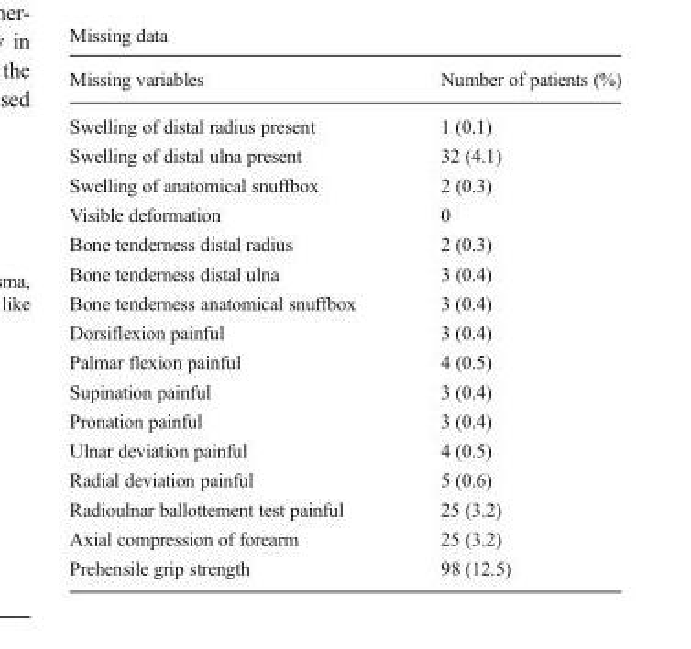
<table><thead><tr><td>Missing variables</td><td>Number of patients (%)</td></tr></thead><tbody><tr><td>Swelling of distal radius present</td><td>1 (0.1)</td></tr><tr><td>Swelling of distal ulna present</td><td>32 (4.1)</td></tr><tr><td>Swelling of anatomical snuffbox</td><td>2 (0.3)</td></tr><tr><td>Visible deformation</td><td>0</td></tr><tr><td>Bone tenderness distal radius</td><td>2 (0.3)</td></tr><tr><td>Bone tenderness distal ulna</td><td>3 (0.4)</td></tr><tr><td>Bone tenderness anatomical snuffbox</td><td>3 (0.4)</td></tr><tr><td>Dorsiflexion painful</td><td>3 (0.4)</td></tr><tr><td>Palmar flexion painful</td><td>4 (0.5)</td></tr><tr><td>Supination painful</td><td>3 (0.4)</td></tr><tr><td>Pronation painful</td><td>3 (0.4)</td></tr><tr><td>Ulnar deviation painful</td><td>4 (0.5)</td></tr><tr><td>Radial deviation painful</td><td>5 (0.6)</td></tr><tr><td>Radioulnar ballottement test painful</td><td>25 (3.2)</td></tr><tr><td>Axial compression of forearm</td><td>25 (3.2)</td></tr><tr><td>Prehensile grip strength</td><td>98 (12.5)</td></tr></tbody></table>